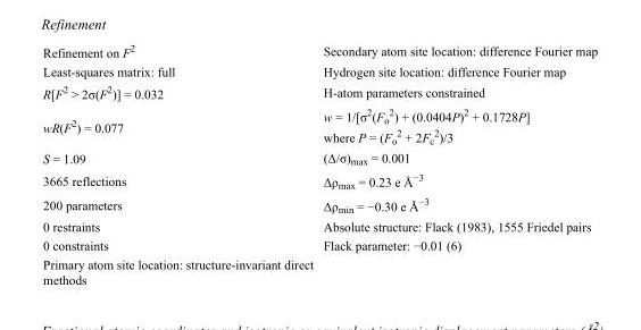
<table><tbody><tr><td>Refinement on F<sup>2</sup></td><td>Secondary atom site location: difference Fourier map</td></tr><tr><td>Least-squares matrix: full</td><td>Hydrogen site location: difference Fourier map</td></tr><tr><td>R[F<sup>2</sup> &gt; 2σ(F<sup>2</sup>)] = 0.032</td><td>H-atom parameters constrained</td></tr><tr><td>wR(F<sup>2</sup>) = 0.077</td><td>w = 1/[σ<sup>2</sup>(F<sub>o</sub> <sup>2</sup>) + (0.0404P)<sup>2</sup> + 0.1728P] where P = (F<sub>o</sub> <sup>2</sup> + 2F<sub>c</sub> <sup>2</sup>)/3</td></tr><tr><td>S = 1.09</td><td>(Δ/σ)<sub>max</sub> = 0.001</td></tr><tr><td>3665 reflections</td><td>Δρ<sub>max</sub> = 0.23 e Å<sup>−3</sup></td></tr><tr><td>200 parameters</td><td>Δρ<sub>min</sub> = −0.30 e Å<sup>−3</sup></td></tr><tr><td>0 restraints</td><td>Absolute structure: Flack (1983), 1555 Friedel pairs</td></tr><tr><td>0 constraints</td><td>Flack parameter: −0.01 (6)</td></tr><tr><td>Primary atom site location: structure-invariant direct methods</td><td></td></tr></tbody></table>